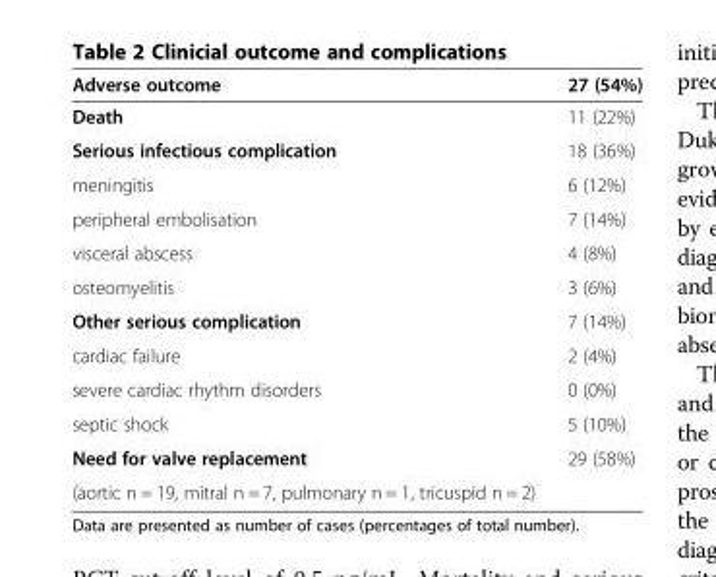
<table><thead><tr><td>Adverse outcome</td><td>27 (54%)</td></tr></thead><tbody><tr><td>Death</td><td>11 (22%)</td></tr><tr><td>Serious infectious complication</td><td>18 (36%)</td></tr><tr><td>meningitis</td><td>6 (12%)</td></tr><tr><td>peripheral embolisation</td><td>7 (14%)</td></tr><tr><td>visceral abscess</td><td>4 (8%)</td></tr><tr><td>osteomyelitis</td><td>3 (6%)</td></tr><tr><td>Other serious complication</td><td>7 (14%)</td></tr><tr><td>cardiac failure</td><td>2 (4%)</td></tr><tr><td>severe cardiac rhythm disorders</td><td>0 (0%)</td></tr><tr><td>septic shock</td><td>5 (10%)</td></tr><tr><td>Need for valve replacement</td><td>29 (58%)</td></tr><tr><td>(aortic n = 19, mitral n = 7, pulmonary n = 1, tricuspid n = 2)</td><td></td></tr></tbody></table>